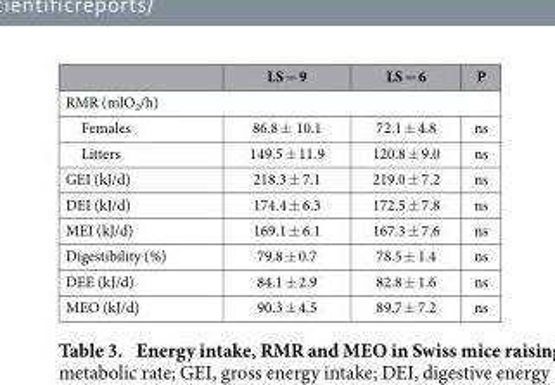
<table><thead><tr><td></td><td>LS = 9</td><td>LS = 6</td><td>P</td></tr></thead><tbody><tr><td colspan="4">RMR (mlO<sub>2</sub>/h)</td></tr><tr><td>Females</td><td>86.8 ± 10.1</td><td>72.1 ± 4.8</td><td>ns</td></tr><tr><td>Litters</td><td>149.5 ± 11.9</td><td>120.8 ± 9.0</td><td>ns</td></tr><tr><td>GEI (kJ/d)</td><td>218.3 ± 7.1</td><td>219.0 ± 7.2</td><td>ns</td></tr><tr><td>DEI (kJ/d)</td><td>174.4 ± 6.3</td><td>172.5 ± 7.8</td><td>ns</td></tr><tr><td>MEI (kJ/d)</td><td>169.1 ± 6.1</td><td>167.3 ± 7.6</td><td>ns</td></tr><tr><td>Digestibility (%)</td><td>79.8 ± 0.7</td><td>78.5 ± 1.4</td><td>ns</td></tr><tr><td>DEE (kJ/d)</td><td>84.1 ± 2.9</td><td>82.8 ± 1.6</td><td>ns</td></tr><tr><td>MEO (kJ/d)</td><td>90.3 ± 4.5</td><td>89.7 ± 7.2</td><td>ns</td></tr></tbody></table>